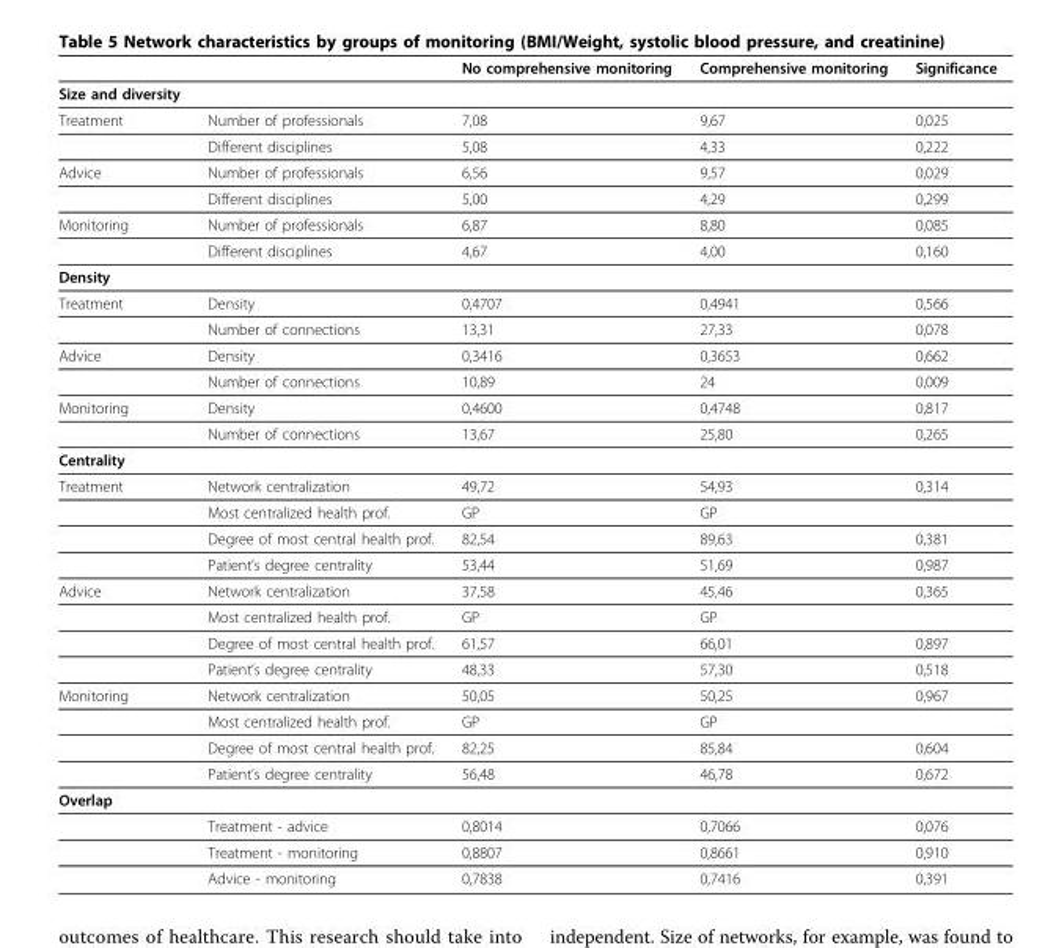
<table><thead><tr><td></td><td></td><td>No comprehensive monitoring</td><td>Comprehensive monitoring</td><td>Significance</td></tr></thead><tbody><tr><td colspan="5">Size and diversity</td></tr><tr><td rowspan="2">Treatment</td><td>Number of professionals</td><td>7,08</td><td>9,67</td><td>0,025</td></tr><tr><td>Different disciplines</td><td>5,08</td><td>4,33</td><td>0,222</td></tr><tr><td rowspan="2">Advice</td><td>Number of professionals</td><td>6,56</td><td>9,57</td><td>0,029</td></tr><tr><td>Different disciplines</td><td>5,00</td><td>4,29</td><td>0,299</td></tr><tr><td rowspan="2">Monitoring</td><td>Number of professionals</td><td>6,87</td><td>8,80</td><td>0,085</td></tr><tr><td>Different disciplines</td><td>4,67</td><td>4,00</td><td>0,160</td></tr><tr><td colspan="5">Density</td></tr><tr><td rowspan="2">Treatment</td><td>Density</td><td>0,4707</td><td>0,4941</td><td>0,566</td></tr><tr><td>Number of connections</td><td>13,31</td><td>27,33</td><td>0,078</td></tr><tr><td rowspan="2">Advice</td><td>Density</td><td>0,3416</td><td>0,3653</td><td>0,662</td></tr><tr><td>Number of connections</td><td>10,89</td><td>24</td><td>0,009</td></tr><tr><td rowspan="2">Monitoring</td><td>Density</td><td>0,4600</td><td>0,4748</td><td>0,817</td></tr><tr><td>Number of connections</td><td>13,67</td><td>25,80</td><td>0,265</td></tr><tr><td colspan="5">Centrality</td></tr><tr><td rowspan="4">Treatment</td><td>Network centralization</td><td>49,72</td><td>54,93</td><td>0,314</td></tr><tr><td>Most centralized health prof.</td><td>GP</td><td>GP</td><td></td></tr><tr><td>Degree of most central health prof.</td><td>82,54</td><td>89,63</td><td>0,381</td></tr><tr><td>Patient’s degree centrality</td><td>53,44</td><td>51,69</td><td>0,987</td></tr><tr><td rowspan="4">Advice</td><td>Network centralization</td><td>37,58</td><td>45,46</td><td>0,365</td></tr><tr><td>Most centralized health prof.</td><td>GP</td><td>GP</td><td></td></tr><tr><td>Degree of most central health prof.</td><td>61,57</td><td>66,01</td><td>0,897</td></tr><tr><td>Patient’s degree centrality</td><td>48,33</td><td>57,30</td><td>0,518</td></tr><tr><td rowspan="4">Monitoring</td><td>Network centralization</td><td>50,05</td><td>50,25</td><td>0,967</td></tr><tr><td>Most centralized health prof.</td><td>GP</td><td>GP</td><td></td></tr><tr><td>Degree of most central health prof.</td><td>82,25</td><td>85,84</td><td>0,604</td></tr><tr><td>Patient’s degree centrality</td><td>56,48</td><td>46,78</td><td>0,672</td></tr><tr><td colspan="5">Overlap</td></tr><tr><td></td><td>Treatment - advice</td><td>0,8014</td><td>0,7066</td><td>0,076</td></tr><tr><td></td><td>Treatment - monitoring</td><td>0,8807</td><td>0,8661</td><td>0,910</td></tr><tr><td></td><td>Advice - monitoring</td><td>0,7838</td><td>0,7416</td><td>0,391</td></tr></tbody></table>